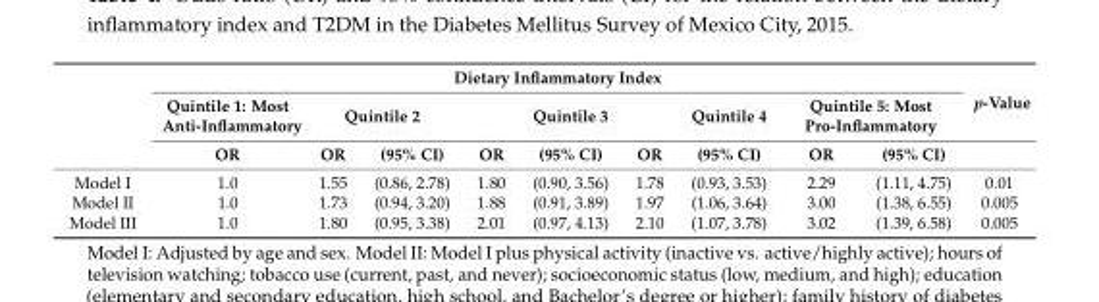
<table><thead><tr><td rowspan="3"></td><td colspan="9">Dietary Inflammatory Index</td><td rowspan="3">p-Value</td></tr><tr><td rowspan="2">Quintile 1: Most Anti-Inflammatory OR</td><td colspan="2">Quintile 2</td><td colspan="3">Quintile 3</td><td rowspan="2">Quintile 4 (95% CI)</td><td colspan="2">Quintile 5: Most Pro-Inflammatory</td></tr><tr><td>OR</td><td>(95% CI)</td><td>OR</td><td>(95% CI)</td><td>OR</td><td>OR</td><td>(95% CI)</td></tr></thead><tbody><tr><td>Model I</td><td>1.0</td><td>1.55</td><td>(0.86, 2.78)</td><td>1.80</td><td>(0.90, 3.56)</td><td>1.78</td><td>(0.93, 3.53)</td><td>2.29</td><td>(1.11, 4.75)</td><td>0.01</td></tr><tr><td>Model II</td><td>1.0</td><td>1.73</td><td>(0.94, 3.20)</td><td>1.88</td><td>(0.91, 3.89)</td><td>1.97</td><td>(1.06, 3.64)</td><td>3.00</td><td>(1.38, 6.55)</td><td>0.005</td></tr><tr><td>Model III</td><td>1.0</td><td>1.80</td><td>(0.95, 3.38)</td><td>2.01</td><td>(0.97, 4.13)</td><td>2.10</td><td>(1.07, 3.78)</td><td>3.02</td><td>(1.39, 6.58)</td><td>0.005</td></tr></tbody></table>